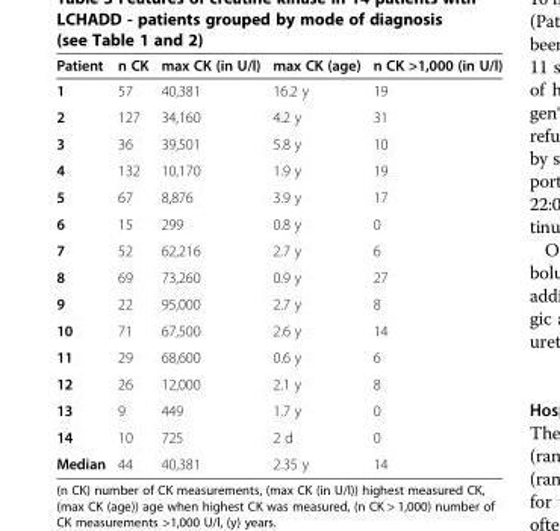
<table><thead><tr><td>Patient</td><td>n CK</td><td>max CK (in U/l)</td><td>max CK (age)</td><td>n CK &gt;1,000 (in U/l)</td></tr></thead><tbody><tr><td>1</td><td>57</td><td>40,381</td><td>16.2 y</td><td>19</td></tr><tr><td>2</td><td>127</td><td>34,160</td><td>4.2 y</td><td>31</td></tr><tr><td>3</td><td>36</td><td>39,501</td><td>5.8 y</td><td>10</td></tr><tr><td>4</td><td>132</td><td>10,170</td><td>1.9 y</td><td>19</td></tr><tr><td>5</td><td>67</td><td>8,876</td><td>3.9 y</td><td>17</td></tr><tr><td>6</td><td>15</td><td>299</td><td>0.8 y</td><td>0</td></tr><tr><td>7</td><td>52</td><td>62,216</td><td>2.7 y</td><td>6</td></tr><tr><td>8</td><td>69</td><td>73,260</td><td>0.9 y</td><td>27</td></tr><tr><td>9</td><td>22</td><td>95,000</td><td>2.7 y</td><td>8</td></tr><tr><td>10</td><td>71</td><td>67,500</td><td>2.6 y</td><td>14</td></tr><tr><td>11</td><td>29</td><td>68,600</td><td>0.6 y</td><td>6</td></tr><tr><td>12</td><td>26</td><td>12,000</td><td>2.1 y</td><td>8</td></tr><tr><td>13</td><td>9</td><td>449</td><td>1.7 y</td><td>0</td></tr><tr><td>14</td><td>10</td><td>725</td><td>2 d</td><td>0</td></tr><tr><td>Median</td><td>44</td><td>40,381</td><td>2.35 y</td><td>14</td></tr></tbody></table>